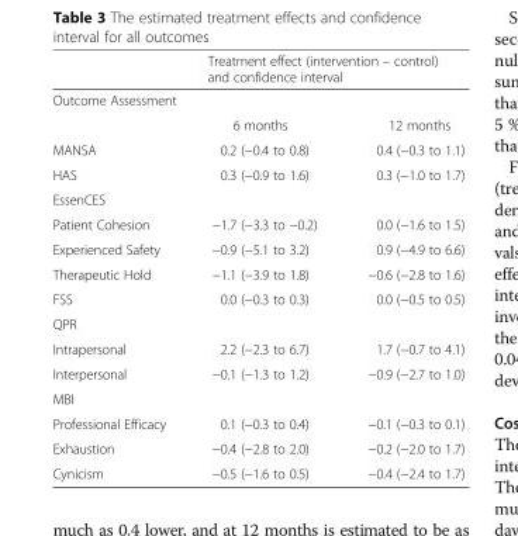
<table><thead><tr><td></td><td colspan="2">Treatment effect (intervention – control) and confidence interval</td></tr><tr><td colspan="3">Outcome Assessment</td></tr><tr><td></td><td>6 months</td><td>12 months</td></tr></thead><tbody><tr><td>MANSA</td><td>0.2 (−0.4 to 0.8)</td><td>0.4 (−0.3 to 1.1)</td></tr><tr><td>HAS</td><td>0.3 (−0.9 to 1.6)</td><td>0.3 (−1.0 to 1.7)</td></tr><tr><td colspan="3">EssenCES</td></tr><tr><td>Patient Cohesion</td><td>−1.7 (−3.3 to −0.2)</td><td>0.0 (−1.6 to 1.5)</td></tr><tr><td>Experienced Safety</td><td>−0.9 (−5.1 to 3.2)</td><td>0.9 (−4.9 to 6.6)</td></tr><tr><td>Therapeutic Hold</td><td>−1.1 (−3.9 to 1.8)</td><td>−0.6 (−2.8 to 1.6)</td></tr><tr><td>FSS</td><td>0.0 (−0.3 to 0.3)</td><td>0.0 (−0.5 to 0.5)</td></tr><tr><td colspan="3">QPR</td></tr><tr><td>Intrapersonal</td><td>2.2 (−2.3 to 6.7)</td><td>1.7 (−0.7 to 4.1)</td></tr><tr><td>Interpersonal</td><td>−0.1 (−1.3 to 1.2)</td><td>−0.9 (−2.7 to 1.0)</td></tr><tr><td colspan="3">MBI</td></tr><tr><td>Professional Efficacy</td><td>0.1 (−0.3 to 0.4)</td><td>−0.1 (−0.3 to 0.1)</td></tr><tr><td>Exhaustion</td><td>−0.4 (−2.8 to 2.0)</td><td>−0.2 (−2.0 to 1.7)</td></tr><tr><td>Cynicism</td><td>−0.5 (−1.6 to 0.5)</td><td>−0.4 (−2.4 to 1.7)</td></tr></tbody></table>